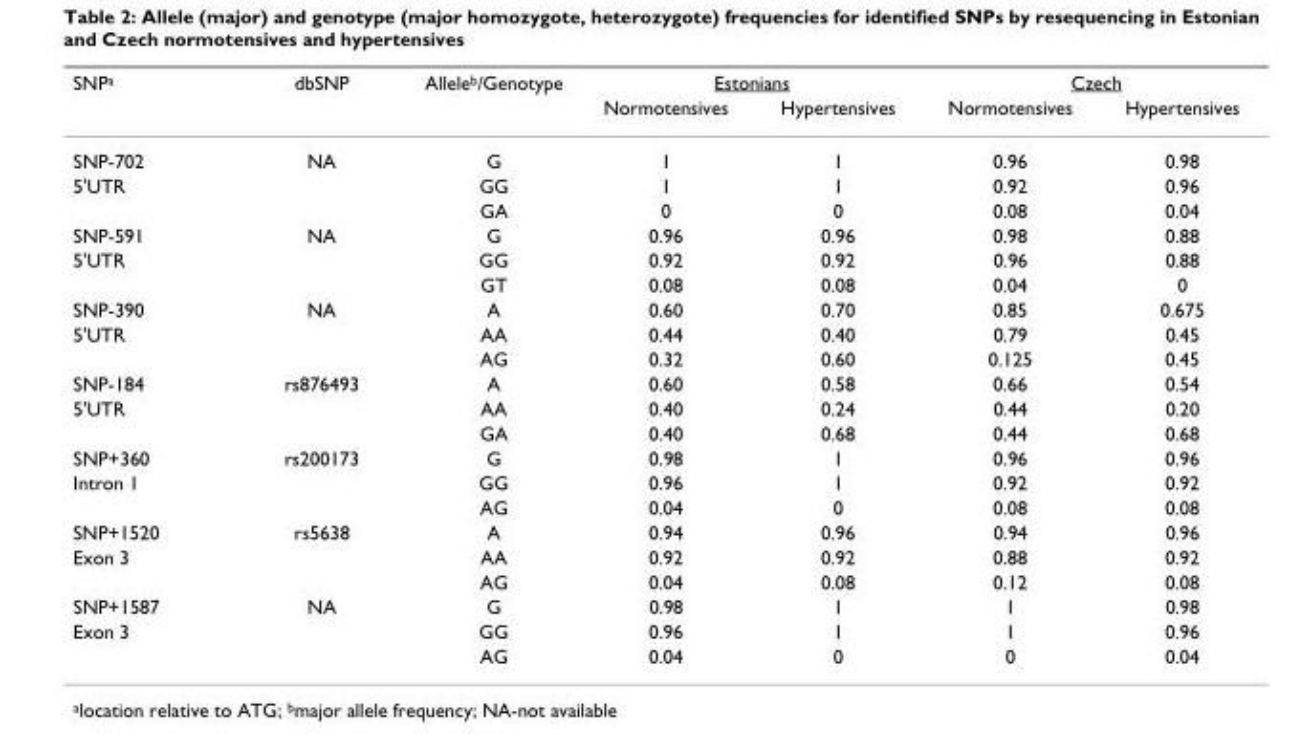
<table><thead><tr><td rowspan="2">SNP<sup>a</sup></td><td rowspan="2">dbSNP</td><td rowspan="2">Allele<sup>b</sup>/Genotype</td><td colspan="2">Estonians</td><td colspan="2">Czech</td></tr><tr><td>Normotensives</td><td>Hypertensives</td><td>Normotensives</td><td>Hypertensives</td></tr></thead><tbody><tr><td>SNP-702</td><td>NA</td><td>G</td><td>1</td><td>1</td><td>0.96</td><td>0.98</td></tr><tr><td rowspan="2">5&#x27;UTR</td><td></td><td>GG</td><td>1</td><td>1</td><td>0.92</td><td>0.96</td></tr><tr><td></td><td>GA</td><td>0</td><td>0</td><td>0.08</td><td>0.04</td></tr><tr><td>SNP-591</td><td>NA</td><td>G</td><td>0.96</td><td>0.96</td><td>0.98</td><td>0.88</td></tr><tr><td rowspan="2">5&#x27;UTR</td><td></td><td>GG</td><td>0.92</td><td>0.92</td><td>0.96</td><td>0.88</td></tr><tr><td></td><td>GT</td><td>0.08</td><td>0.08</td><td>0.04</td><td>0</td></tr><tr><td>SNP-390</td><td>NA</td><td>A</td><td>0.60</td><td>0.70</td><td>0.85</td><td>0.675</td></tr><tr><td rowspan="2">5&#x27;UTR</td><td></td><td>AA</td><td>0.44</td><td>0.40</td><td>0.79</td><td>0.45</td></tr><tr><td></td><td>AG</td><td>0.32</td><td>0.60</td><td>0.125</td><td>0.45</td></tr><tr><td>SNP-184</td><td>rs876493</td><td>A</td><td>0.60</td><td>0.58</td><td>0.66</td><td>0.54</td></tr><tr><td rowspan="2">5&#x27;UTR</td><td></td><td>AA</td><td>0.40</td><td>0.24</td><td>0.44</td><td>0.20</td></tr><tr><td></td><td>GA</td><td>0.40</td><td>0.68</td><td>0.44</td><td>0.68</td></tr><tr><td>SNP+360</td><td>rs200173</td><td>G</td><td>0.98</td><td>1</td><td>0.96</td><td>0.96</td></tr><tr><td rowspan="2">Intron 1</td><td></td><td>GG</td><td>0.96</td><td>1</td><td>0.92</td><td>0.92</td></tr><tr><td></td><td>AG</td><td>0.04</td><td>0</td><td>0.08</td><td>0.08</td></tr><tr><td>SNP+1520</td><td>rs5638</td><td>A</td><td>0.94</td><td>0.96</td><td>0.94</td><td>0.96</td></tr><tr><td rowspan="2">Exon 3</td><td></td><td>AA</td><td>0.92</td><td>0.92</td><td>0.88</td><td>0.92</td></tr><tr><td></td><td>AG</td><td>0.04</td><td>0.08</td><td>0.12</td><td>0.08</td></tr><tr><td>SNP+1587</td><td>NA</td><td>G</td><td>0.98</td><td>1</td><td>1</td><td>0.98</td></tr><tr><td rowspan="2">Exon 3</td><td></td><td>GG</td><td>0.96</td><td>1</td><td>1</td><td>0.96</td></tr><tr><td></td><td>AG</td><td>0.04</td><td>0</td><td>0</td><td>0.04</td></tr></tbody></table>